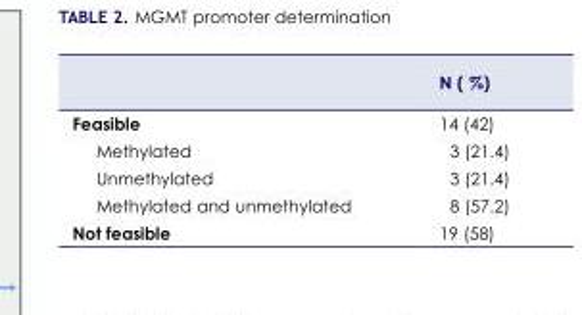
<table><thead><tr><td></td><td>N ( %)</td></tr></thead><tbody><tr><td>Feasible</td><td>14 (42)</td></tr><tr><td>Methylated</td><td>3 (21.4)</td></tr><tr><td>Unmethylated</td><td>3 (21.4)</td></tr><tr><td>Methylated and unmethylated</td><td>8 (57.2)</td></tr><tr><td>Not feasible</td><td>19 (58)</td></tr></tbody></table>